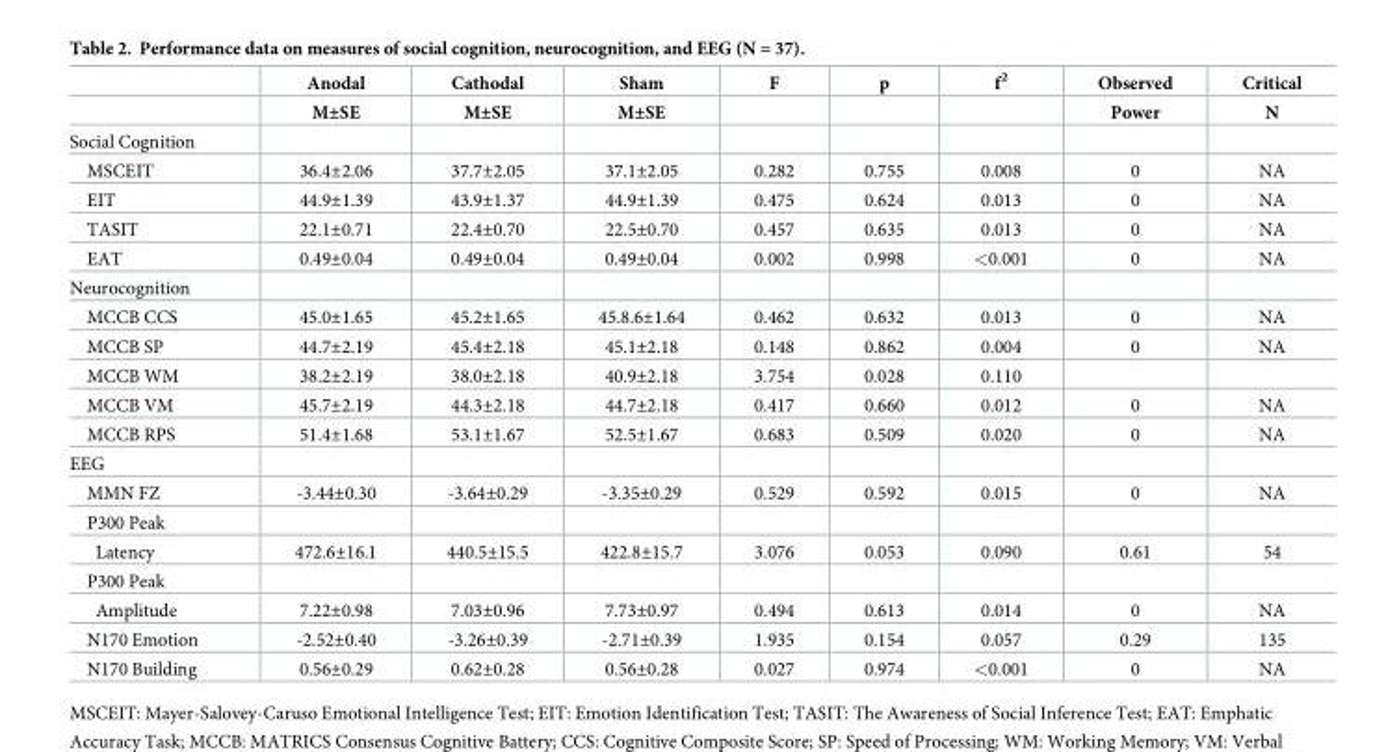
<table><thead><tr><td rowspan="2"></td><td rowspan="2">Anodal M±SE</td><td rowspan="2">Cathodal M±SE</td><td rowspan="2">Sham M±SE</td><td rowspan="2">F</td><td rowspan="2">p</td><td rowspan="2">f<sup>2</sup></td><td rowspan="2">Observed Power</td><td rowspan="2">Critical N</td></tr><tr></tr></thead><tbody><tr><td colspan="9">Social Cognition</td></tr><tr><td>MSCEIT</td><td>36.4±2.06</td><td>37.7±2.05</td><td>37.1±2.05</td><td>0.282</td><td>0.755</td><td>0.008</td><td>0</td><td>NA</td></tr><tr><td>EIT</td><td>44.9±1.39</td><td>43.9±1.37</td><td>44.9±1.39</td><td>0.475</td><td>0.624</td><td>0.013</td><td>0</td><td>NA</td></tr><tr><td>TASIT</td><td>22.1±0.71</td><td>22.4±0.70</td><td>22.5±0.70</td><td>0.457</td><td>0.635</td><td>0.013</td><td>0</td><td>NA</td></tr><tr><td>EAT</td><td>0.49±0.04</td><td>0.49±0.04</td><td>0.49±0.04</td><td>0.002</td><td>0.998</td><td>&lt;0.001</td><td>0</td><td>NA</td></tr><tr><td colspan="9">Neurocognition</td></tr><tr><td>MCCB CCS</td><td>45.0±1.65</td><td>45.2±1.65</td><td>45.8.6±1.64</td><td>0.462</td><td>0.632</td><td>0.013</td><td>0</td><td>NA</td></tr><tr><td>MCCB SP</td><td>44.7±2.19</td><td>45.4±2.18</td><td>45.1±2.18</td><td>0.148</td><td>0.862</td><td>0.004</td><td>0</td><td>NA</td></tr><tr><td>MCCB WM</td><td>38.2±2.19</td><td>38.0±2.18</td><td>40.9±2.18</td><td>3.754</td><td>0.028</td><td>0.110</td><td></td><td></td></tr><tr><td>MCCB VM</td><td>45.7±2.19</td><td>44.3±2.18</td><td>44.7±2.18</td><td>0.417</td><td>0.660</td><td>0.012</td><td>0</td><td>NA</td></tr><tr><td>MCCB RPS</td><td>51.4±1.68</td><td>53.1±1.67</td><td>52.5±1.67</td><td>0.683</td><td>0.509</td><td>0.020</td><td>0</td><td>NA</td></tr><tr><td colspan="9">EEG</td></tr><tr><td>MMN FZ</td><td>-3.44±0.30</td><td>-3.64±0.29</td><td>-3.35±0.29</td><td>0.529</td><td>0.592</td><td>0.015</td><td>0</td><td>NA</td></tr><tr><td colspan="9">P300 Peak</td></tr><tr><td>Latency</td><td>472.6±16.1</td><td>440.5±15.5</td><td>422.8±15.7</td><td>3.076</td><td>0.053</td><td>0.090</td><td>0.61</td><td>54</td></tr><tr><td colspan="9">P300 Peak</td></tr><tr><td>Amplitude</td><td>7.22±0.98</td><td>7.03±0.96</td><td>7.73±0.97</td><td>0.494</td><td>0.613</td><td>0.014</td><td>0</td><td>NA</td></tr><tr><td>N170 Emotion</td><td>-2.52±0.40</td><td>-3.26±0.39</td><td>-2.71±0.39</td><td>1.935</td><td>0.154</td><td>0.057</td><td>0.29</td><td>135</td></tr><tr><td>N170 Building</td><td>0.56±0.29</td><td>0.62±0.28</td><td>0.56±0.28</td><td>0.027</td><td>0.974</td><td>&lt;0.001</td><td>0</td><td>NA</td></tr></tbody></table>